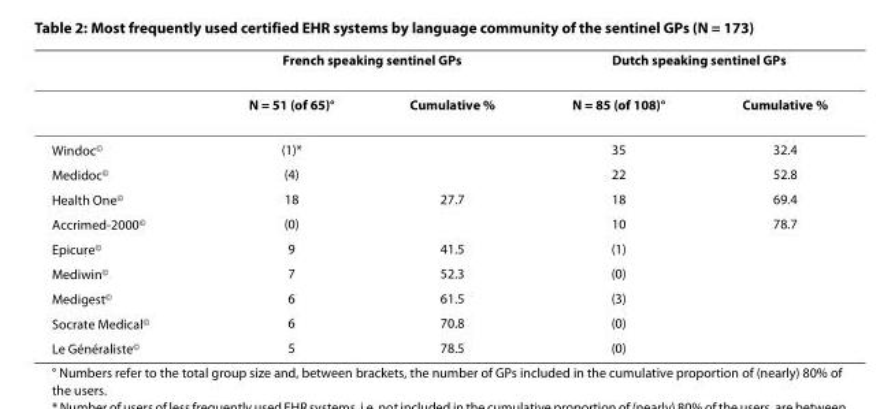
<table><thead><tr><td rowspan="2"></td><td colspan="2">French speaking sentinel GPs</td><td colspan="2">Dutch speaking sentinel GPs</td></tr><tr><td>N = 51 (of 65)°</td><td>Cumulative %</td><td>N = 85 (of 108)°</td><td>Cumulative %</td></tr></thead><tbody><tr><td>Windoc<sup>©</sup></td><td>(1)*</td><td></td><td>35</td><td>32.4</td></tr><tr><td>Medidoc<sup>©</sup></td><td>(4)</td><td></td><td>22</td><td>52.8</td></tr><tr><td>Health One<sup>©</sup></td><td>18</td><td>27.7</td><td>18</td><td>69.4</td></tr><tr><td>Accrimed-2000<sup>©</sup></td><td>(0)</td><td></td><td>10</td><td>78.7</td></tr><tr><td>Epicure<sup>©</sup></td><td>9</td><td>41.5</td><td>(1)</td><td></td></tr><tr><td>Mediwin<sup>©</sup></td><td>7</td><td>52.3</td><td>(0)</td><td></td></tr><tr><td>Medigest<sup>©</sup></td><td>6</td><td>61.5</td><td>(3)</td><td></td></tr><tr><td>Socrate Medical<sup>©</sup></td><td>6</td><td>70.8</td><td>(0)</td><td></td></tr><tr><td>Le Généraliste<sup>©</sup></td><td>5</td><td>78.5</td><td>(0)</td><td></td></tr></tbody></table>